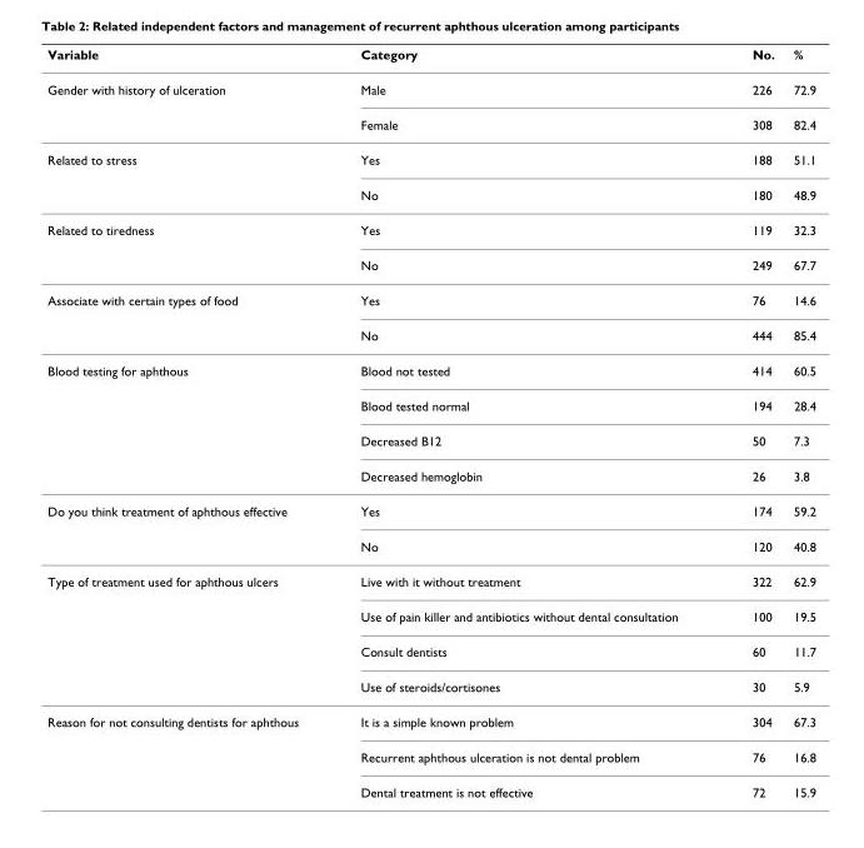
<table><thead><tr><td>Variable</td><td>Category</td><td>No.</td><td>%</td></tr></thead><tbody><tr><td rowspan="2">Gender with history of ulceration</td><td>Male</td><td>226</td><td>72.9</td></tr><tr><td>Female</td><td>308</td><td>82.4</td></tr><tr><td rowspan="2">Related to stress</td><td>Yes</td><td>188</td><td>51.1</td></tr><tr><td>No</td><td>180</td><td>48.9</td></tr><tr><td rowspan="2">Related to tiredness</td><td>Yes</td><td>119</td><td>32.3</td></tr><tr><td>No</td><td>249</td><td>67.7</td></tr><tr><td rowspan="2">Associate with certain types of food</td><td>Yes</td><td>76</td><td>14.6</td></tr><tr><td>No</td><td>444</td><td>85.4</td></tr><tr><td rowspan="4">Blood testing for aphthous</td><td>Blood not tested</td><td>414</td><td>60.5</td></tr><tr><td>Blood tested normal</td><td>194</td><td>28.4</td></tr><tr><td>Decreased B12</td><td>50</td><td>7.3</td></tr><tr><td>Decreased hemoglobin</td><td>26</td><td>3.8</td></tr><tr><td rowspan="2">Do you think treatment of aphthous effective</td><td>Yes</td><td>174</td><td>59.2</td></tr><tr><td>No</td><td>120</td><td>40.8</td></tr><tr><td rowspan="4">Type of treatment used for aphthous ulcers</td><td>Live with it without treatment</td><td>322</td><td>62.9</td></tr><tr><td>Use of pain killer and antibiotics without dental consultation</td><td>100</td><td>19.5</td></tr><tr><td>Consult dentists</td><td>60</td><td>11.7</td></tr><tr><td>Use of steroids/cortisones</td><td>30</td><td>5.9</td></tr><tr><td rowspan="3">Reason for not consulting dentists for aphthous</td><td>It is a simple known problem</td><td>304</td><td>67.3</td></tr><tr><td>Recurrent aphthous ulceration is not dental problem</td><td>76</td><td>16.8</td></tr><tr><td>Dental treatment is not effective</td><td>72</td><td>15.9</td></tr></tbody></table>